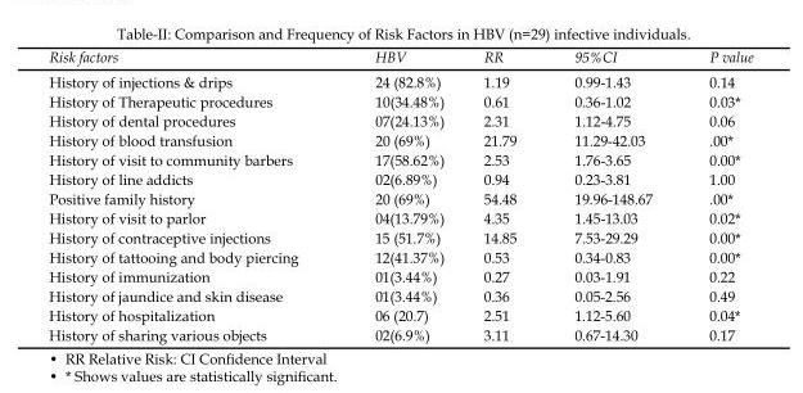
<table><thead><tr><td>Risk factors</td><td>HBV</td><td>RR</td><td>95%CI</td><td>P value</td></tr></thead><tbody><tr><td>History of injections &amp; drips</td><td>24 (82.8%)</td><td>1.19</td><td>0.99-1.43</td><td>0.14</td></tr><tr><td>History of Therapeutic procedures</td><td>10(34.48%)</td><td>0.61</td><td>0.36-1.02</td><td>0.03*</td></tr><tr><td>History of dental procedures</td><td>07(24.13%)</td><td>2.31</td><td>1.12-4.75</td><td>0.06</td></tr><tr><td>History of blood transfusion</td><td>20 (69%)</td><td>21.79</td><td>11.29-42.03</td><td>.00*</td></tr><tr><td>History of visit to community barbers</td><td>17(58.62%)</td><td>2.53</td><td>1.76-3.65</td><td>0.00*</td></tr><tr><td>History of line addicts</td><td>02(6.89%)</td><td>0.94</td><td>0.23-3.81</td><td>1.00</td></tr><tr><td>Positive family history</td><td>20 (69%)</td><td>54.48</td><td>19.96-148.67</td><td>.00*</td></tr><tr><td>History of visit to parlor</td><td>04(13.79%)</td><td>4.35</td><td>1.45-13.03</td><td>0.02*</td></tr><tr><td>History of contraceptive injections</td><td>15 (51.7%)</td><td>14.85</td><td>7.53-29.29</td><td>0.00*</td></tr><tr><td>History of tattooing and body piercing</td><td>12(41.37%)</td><td>0.53</td><td>0.34-0.83</td><td>0.00*</td></tr><tr><td>History of immunization</td><td>01(3.44%)</td><td>0.27</td><td>0.03-1.91</td><td>0.22</td></tr><tr><td>History of jaundice and skin disease</td><td>01(3.44%)</td><td>0.36</td><td>0.05-2.56</td><td>0.49</td></tr><tr><td>History of hospitalization</td><td>06 (20.7)</td><td>2.51</td><td>1.12-5.60</td><td>0.04*</td></tr><tr><td>History of sharing various objects</td><td>02(6.9%)</td><td>3.11</td><td>0.67-14.30</td><td>0.17</td></tr></tbody></table>